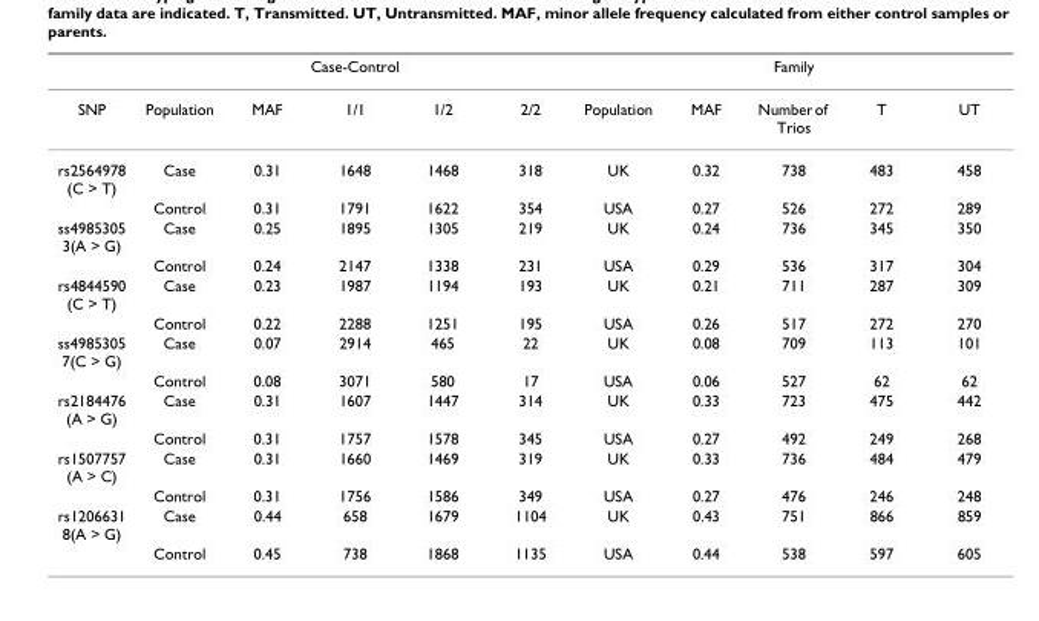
<table><thead><tr><td rowspan="2">SNP</td><td colspan="5">Case-Control</td><td colspan="5">Family</td></tr><tr><td>Population</td><td>MAF</td><td>1/1</td><td>1/2</td><td>2/2</td><td>Population</td><td>MAF</td><td>Number of Trios</td><td>T</td><td>UT</td></tr></thead><tbody><tr><td rowspan="2">rs2564978 (C &gt; T)</td><td>Case</td><td>0.31</td><td>1648</td><td>1468</td><td>318</td><td>UK</td><td>0.32</td><td>738</td><td>483</td><td>458</td></tr><tr><td>Control</td><td>0.31</td><td>1791</td><td>1622</td><td>354</td><td>USA</td><td>0.27</td><td>526</td><td>272</td><td>289</td></tr><tr><td rowspan="2">ss4985305 3(A &gt; G)</td><td>Case</td><td>0.25</td><td>1895</td><td>1305</td><td>219</td><td>UK</td><td>0.24</td><td>736</td><td>345</td><td>350</td></tr><tr><td>Control</td><td>0.24</td><td>2147</td><td>1338</td><td>231</td><td>USA</td><td>0.29</td><td>536</td><td>317</td><td>304</td></tr><tr><td rowspan="2">rs4844590 (C &gt; T)</td><td>Case</td><td>0.23</td><td>1987</td><td>1194</td><td>193</td><td>UK</td><td>0.21</td><td>711</td><td>287</td><td>309</td></tr><tr><td>Control</td><td>0.22</td><td>2288</td><td>1251</td><td>195</td><td>USA</td><td>0.26</td><td>517</td><td>272</td><td>270</td></tr><tr><td rowspan="2">ss4985305 7(C &gt; G)</td><td>Case</td><td>0.07</td><td>2914</td><td>465</td><td>22</td><td>UK</td><td>0.08</td><td>709</td><td>113</td><td>101</td></tr><tr><td>Control</td><td>0.08</td><td>3071</td><td>580</td><td>17</td><td>USA</td><td>0.06</td><td>527</td><td>62</td><td>62</td></tr><tr><td rowspan="2">rs2184476 (A &gt; G)</td><td>Case</td><td>0.31</td><td>1607</td><td>1447</td><td>314</td><td>UK</td><td>0.33</td><td>723</td><td>475</td><td>442</td></tr><tr><td>Control</td><td>0.31</td><td>1757</td><td>1578</td><td>345</td><td>USA</td><td>0.27</td><td>492</td><td>249</td><td>268</td></tr><tr><td rowspan="2">rs1507757 (A &gt; C)</td><td>Case</td><td>0.31</td><td>1660</td><td>1469</td><td>319</td><td>UK</td><td>0.33</td><td>736</td><td>484</td><td>479</td></tr><tr><td>Control</td><td>0.31</td><td>1756</td><td>1586</td><td>349</td><td>USA</td><td>0.27</td><td>476</td><td>246</td><td>248</td></tr><tr><td rowspan="2">rs1206631 8(A &gt; G)</td><td>Case</td><td>0.44</td><td>658</td><td>1679</td><td>1104</td><td>UK</td><td>0.43</td><td>751</td><td>866</td><td>859</td></tr><tr><td>Control</td><td>0.45</td><td>738</td><td>1868</td><td>1135</td><td>USA</td><td>0.44</td><td>538</td><td>597</td><td>605</td></tr></tbody></table>